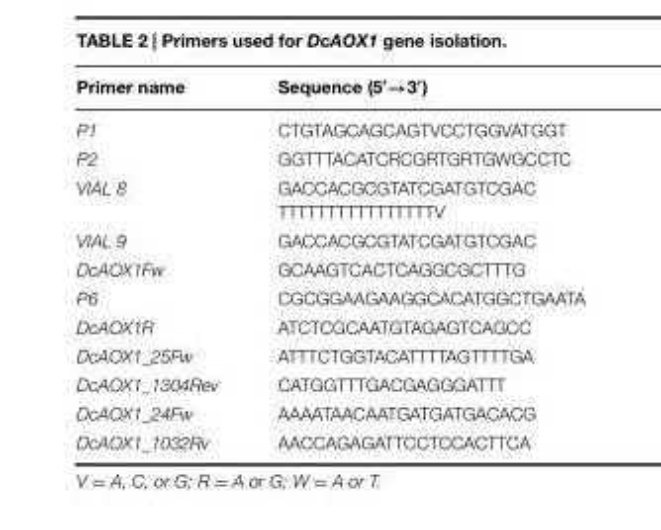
<table><thead><tr><td>Primer name</td><td>Sequence (5′→3′)</td></tr></thead><tbody><tr><td>P1</td><td>CTGTAGCAGCAGTVCCTGGVATGGT</td></tr><tr><td>P2</td><td>GGTTTACATCRCGRTGRTGWGCCTC</td></tr><tr><td>VIAL 8</td><td>GACCACGCGTATCGATGTCGAC TTTTTTTTTTTTTTTTV</td></tr><tr><td>VIAL 9</td><td>GACCACGCGTATCGATGTCGAC</td></tr><tr><td>DcAOX1Fw</td><td>GCAAGTCACTCAGGCGCTTTG</td></tr><tr><td>P6</td><td>CGCGGAAGAAGGCACATGGCTGAATA</td></tr><tr><td>DcAOX1R</td><td>ATCTCGCAATGTAGAGTCAGCC</td></tr><tr><td>DcAOX1_25Fw</td><td>ATTTCTGGTACATTTTAGTTTTGA</td></tr><tr><td>DcAOX1_1304Rev</td><td>CATGGTTTGACGAGGGATTT</td></tr><tr><td>DcAOX1_24Fw</td><td>AAAATAACAATGATGATGACACG</td></tr><tr><td>DcAOX1_1032Rv</td><td>AACCAGAGATTCCTCCACTTCA</td></tr></tbody></table>